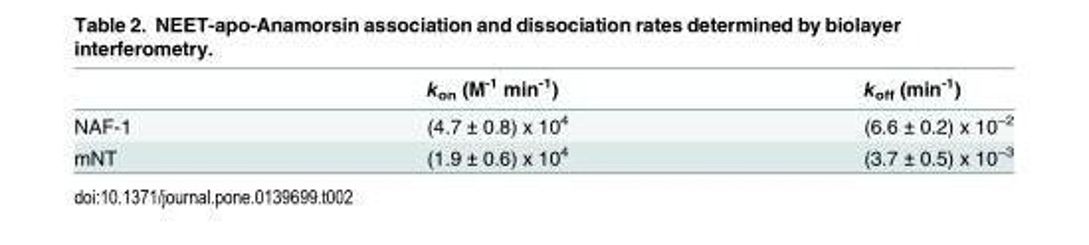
<table><thead><tr><td></td><td>k<sub>on</sub> (M<sup>-1</sup> min<sup>-1</sup>)</td><td>k<sub>off</sub> (min<sup>-1</sup>)</td></tr></thead><tbody><tr><td>NAF-1</td><td>(4.7 ± 0.8) x 10<sup>4</sup></td><td>(6.6 ± 0.2) x 10<sup>−2</sup></td></tr><tr><td>mNT</td><td>(1.9 ± 0.6) x 10<sup>4</sup></td><td>(3.7 ± 0.5) x 10<sup>−3</sup></td></tr></tbody></table>